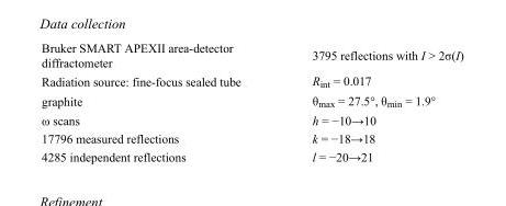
<table><tbody><tr><td>Bruker SMART APEXII area-detector diffractometer</td><td>3795 reflections with I &gt; 2σ(I)</td></tr><tr><td>Radiation source: fine-focus sealed tube</td><td>R<sub>int</sub> = 0.017</td></tr><tr><td>graphite</td><td>θ<sub>max</sub> = 27.5°, θ<sub>min</sub> = 1.9°</td></tr><tr><td>ω scans</td><td>h = −10→10</td></tr><tr><td>17796 measured reflections</td><td>k = −18→18</td></tr><tr><td>4285 independent reflections</td><td>l = −20→21</td></tr></tbody></table>